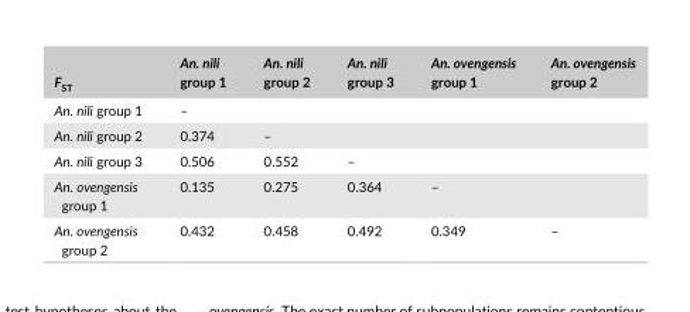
<table><thead><tr><td>F<sub>ST</sub></td><td>An. nili group 1</td><td>An. nili group 2</td><td>An. nili group 3</td><td>An. ovengensis group 1</td><td>An. ovengensis group 2</td></tr></thead><tbody><tr><td>An. nili group 1</td><td>–</td><td></td><td></td><td></td><td></td></tr><tr><td>An. nili group 2</td><td>0.374</td><td>–</td><td></td><td></td><td></td></tr><tr><td>An. nili group 3</td><td>0.506</td><td>0.552</td><td>–</td><td></td><td></td></tr><tr><td>An. ovengensis group 1</td><td>0.135</td><td>0.275</td><td>0.364</td><td>–</td><td></td></tr><tr><td>An. ovengensis group 2</td><td>0.432</td><td>0.458</td><td>0.492</td><td>0.349</td><td>–</td></tr></tbody></table>